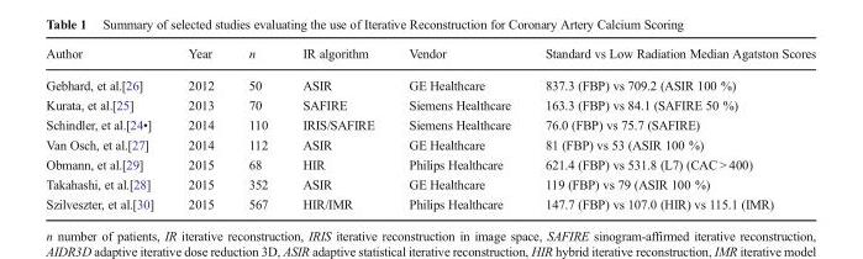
<table><thead><tr><td>Author</td><td>Year</td><td>n</td><td>IR algorithm</td><td>Vendor</td><td>Standard vs Low Radiation Median Agatston Scores</td></tr></thead><tbody><tr><td>Gebhard, et al.[26]</td><td>2012</td><td>50</td><td>ASIR</td><td>GE Healthcare</td><td>837.3 (FBP) vs 709.2 (ASIR 100 %)</td></tr><tr><td>Kurata, et al.[25]</td><td>2013</td><td>70</td><td>SAFIRE</td><td>Siemens Healthcare</td><td>163.3 (FBP) vs 84.1 (SAFIRE 50 %)</td></tr><tr><td>Schindler, et al.[24•]</td><td>2014</td><td>110</td><td>IRIS/SAFIRE</td><td>Siemens Healthcare</td><td>76.0 (FBP) vs 75.7 (SAFIRE)</td></tr><tr><td>Van Osch, et al.[27]</td><td>2014</td><td>112</td><td>ASIR</td><td>GE Healthcare</td><td>81 (FBP) vs 53 (ASIR 100 %)</td></tr><tr><td>Obmann, et al.[29]</td><td>2015</td><td>68</td><td>HIR</td><td>Philips Healthcare</td><td>621.4 (FBP) vs 531.8 (L7) (CAC &gt; 400)</td></tr><tr><td>Takahashi, et al.[28]</td><td>2015</td><td>352</td><td>ASIR</td><td>GE Healthcare</td><td>119 (FBP) vs 79 (ASIR 100 %)</td></tr><tr><td>Szilveszter, et al.[30]</td><td>2015</td><td>567</td><td>HIR/IMR</td><td>Philips Healthcare</td><td>147.7 (FBP) vs 107.0 (HIR) vs 115.1 (IMR)</td></tr></tbody></table>